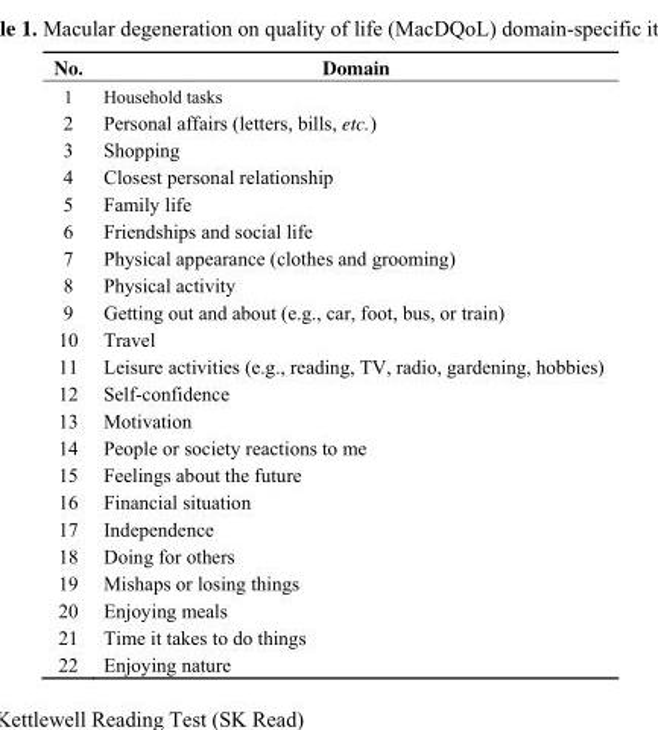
<table><thead><tr><td>No.</td><td>Domain</td></tr></thead><tbody><tr><td>1</td><td>Household tasks</td></tr><tr><td>2</td><td>Personal affairs (letters, bills, etc.)</td></tr><tr><td>3</td><td>Shopping</td></tr><tr><td>4</td><td>Closest personal relationship</td></tr><tr><td>5</td><td>Family life</td></tr><tr><td>6</td><td>Friendships and social life</td></tr><tr><td>7</td><td>Physical appearance (clothes and grooming)</td></tr><tr><td>8</td><td>Physical activity</td></tr><tr><td>9</td><td>Getting out and about (e.g., car, foot, bus, or train)</td></tr><tr><td>10</td><td>Travel</td></tr><tr><td>11</td><td>Leisure activities (e.g., reading, TV, radio, gardening, hobbies)</td></tr><tr><td>12</td><td>Self-confidence</td></tr><tr><td>13</td><td>Motivation</td></tr><tr><td>14</td><td>People or society reactions to me</td></tr><tr><td>15</td><td>Feelings about the future</td></tr><tr><td>16</td><td>Financial situation</td></tr><tr><td>17</td><td>Independence</td></tr><tr><td>18</td><td>Doing for others</td></tr><tr><td>19</td><td>Mishaps or losing things</td></tr><tr><td>20</td><td>Enjoying meals</td></tr><tr><td>21</td><td>Time it takes to do things</td></tr><tr><td>22</td><td>Enjoying nature</td></tr></tbody></table>